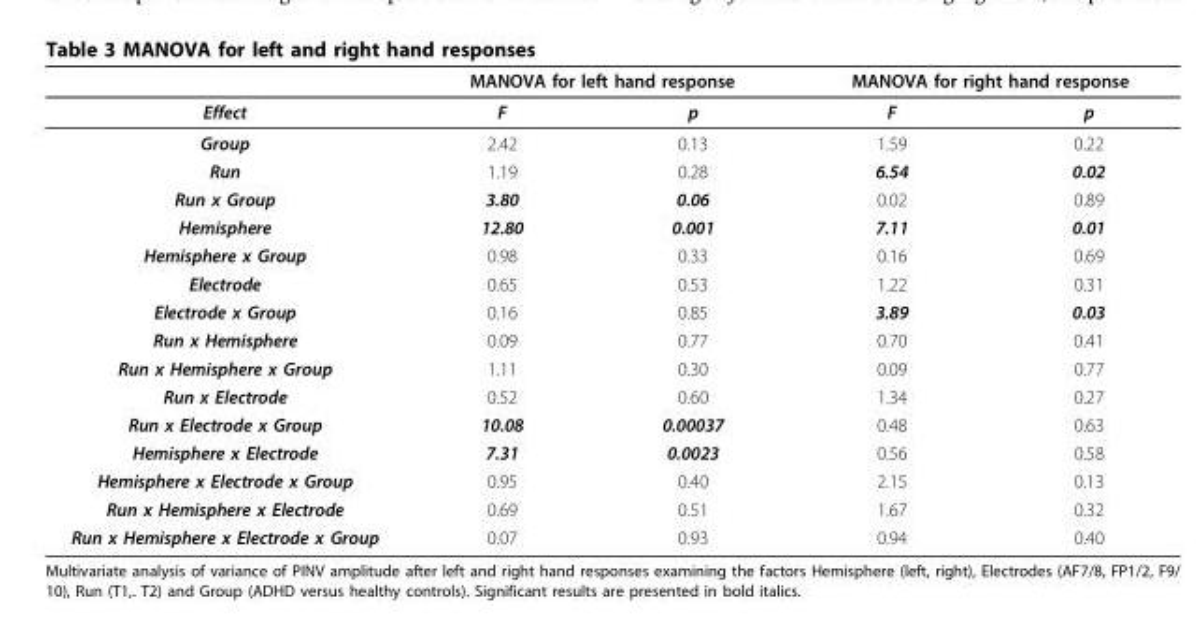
<table><thead><tr><td rowspan="2">Effect</td><td colspan="2">MANOVA for left hand response</td><td colspan="2">MANOVA for right hand response</td></tr><tr><td>F</td><td>p</td><td>F</td><td>p</td></tr></thead><tbody><tr><td>Group</td><td>2.42</td><td>0.13</td><td>1.59</td><td>0.22</td></tr><tr><td>Run</td><td>1.19</td><td>0.28</td><td>6.54</td><td>0.02</td></tr><tr><td>Run x Group</td><td>3.80</td><td>0.06</td><td>0.02</td><td>0.89</td></tr><tr><td>Hemisphere</td><td>12.80</td><td>0.001</td><td>7.11</td><td>0.01</td></tr><tr><td>Hemisphere x Group</td><td>0.98</td><td>0.33</td><td>0.16</td><td>0.69</td></tr><tr><td>Electrode</td><td>0.65</td><td>0.53</td><td>1.22</td><td>0.31</td></tr><tr><td>Electrode x Group</td><td>0.16</td><td>0.85</td><td>3.89</td><td>0.03</td></tr><tr><td>Run x Hemisphere</td><td>0.09</td><td>0.77</td><td>0.70</td><td>0.41</td></tr><tr><td>Run x Hemisphere x Group</td><td>1.11</td><td>0.30</td><td>0.09</td><td>0.77</td></tr><tr><td>Run x Electrode</td><td>0.52</td><td>0.60</td><td>1.34</td><td>0.27</td></tr><tr><td>Run x Electrode x Group</td><td>10.08</td><td>0.00037</td><td>0.48</td><td>0.63</td></tr><tr><td>Hemisphere x Electrode</td><td>7.31</td><td>0.0023</td><td>0.56</td><td>0.58</td></tr><tr><td>Hemisphere x Electrode x Group</td><td>0.95</td><td>0.40</td><td>2.15</td><td>0.13</td></tr><tr><td>Run x Hemisphere x Electrode</td><td>0.69</td><td>0.51</td><td>1.67</td><td>0.32</td></tr><tr><td>Run x Hemisphere x Electrode x Group</td><td>0.07</td><td>0.93</td><td>0.94</td><td>0.40</td></tr></tbody></table>